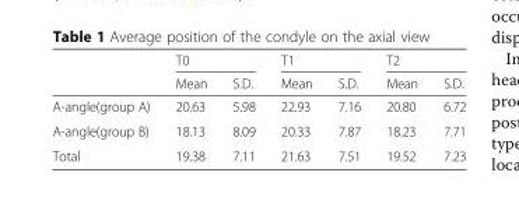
<table><thead><tr><td rowspan="2"></td><td colspan="2">T0</td><td colspan="2">T1</td><td colspan="2">T2</td></tr><tr><td>Mean</td><td>S.D.</td><td>Mean</td><td>S.D.</td><td>Mean</td><td>S.D.</td></tr></thead><tbody><tr><td>A-angle(group A)</td><td>20.63</td><td>5.98</td><td>22.93</td><td>7.16</td><td>20.80</td><td>6.72</td></tr><tr><td>A-angle(group B)</td><td>18.13</td><td>8.09</td><td>20.33</td><td>7.87</td><td>18.23</td><td>7.71</td></tr><tr><td>Total</td><td>19.38</td><td>7.11</td><td>21.63</td><td>7.51</td><td>19.52</td><td>7.23</td></tr></tbody></table>